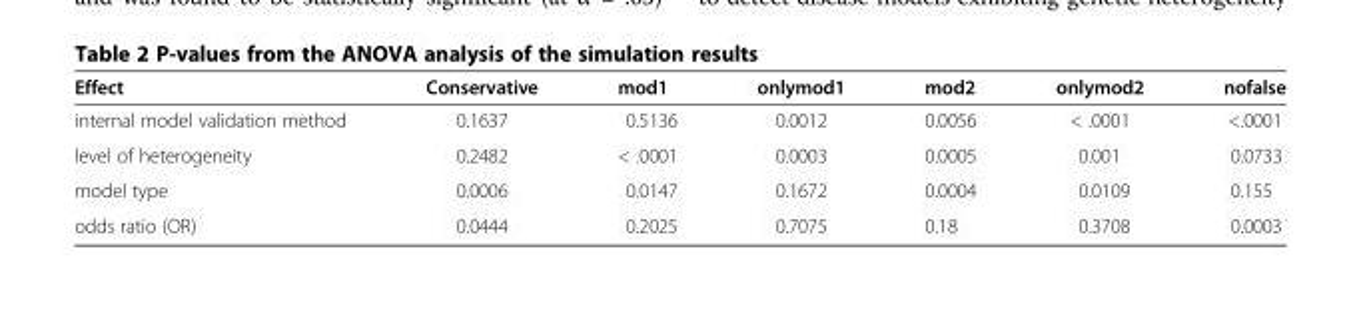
<table><thead><tr><td>Effect</td><td>Conservative</td><td>mod1</td><td>onlymod1</td><td>mod2</td><td>onlymod2</td><td>nofalse</td></tr></thead><tbody><tr><td>internal model validation method</td><td>0.1637</td><td>0.5136</td><td>0.0012</td><td>0.0056</td><td>&lt; .0001</td><td>&lt;.0001</td></tr><tr><td>level of heterogeneity</td><td>0.2482</td><td>&lt; .0001</td><td>0.0003</td><td>0.0005</td><td>0.001</td><td>0.0733</td></tr><tr><td>model type</td><td>0.0006</td><td>0.0147</td><td>0.1672</td><td>0.0004</td><td>0.0109</td><td>0.155</td></tr><tr><td>odds ratio (OR)</td><td>0.0444</td><td>0.2025</td><td>0.7075</td><td>0.18</td><td>0.3708</td><td>0.0003</td></tr></tbody></table>